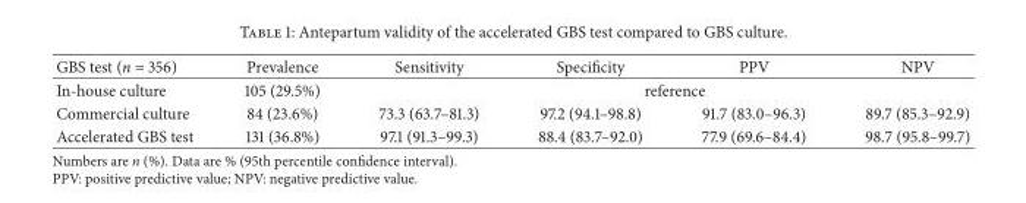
<table><thead><tr><td>GBS test (n = 356)</td><td>Prevalence</td><td>Sensitivity</td><td>Specificity</td><td>PPV</td><td>NPV</td></tr></thead><tbody><tr><td>In-house culture</td><td>105 (29.5%)</td><td colspan="4">reference</td></tr><tr><td>Commercial culture</td><td>84 (23.6%)</td><td>73.3 (63.7–81.3)</td><td>97.2 (94.1–98.8)</td><td>91.7 (83.0–96.3)</td><td>89.7 (85.3–92.9)</td></tr><tr><td>Accelerated GBS test</td><td>131 (36.8%)</td><td>97.1 (91.3–99.3)</td><td>88.4 (83.7–92.0)</td><td>77.9 (69.6–84.4)</td><td>98.7 (95.8–99.7)</td></tr></tbody></table>